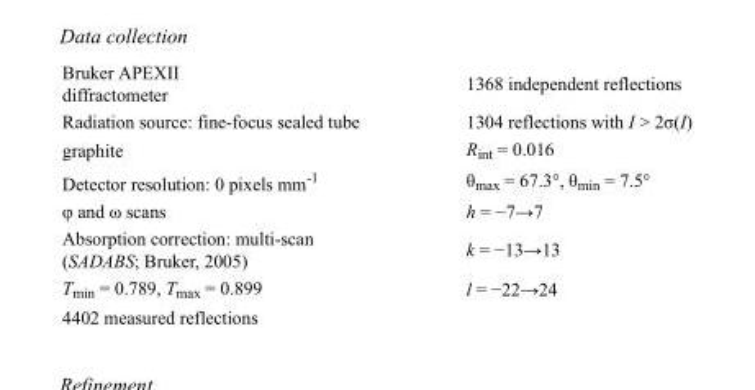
<table><tbody><tr><td>Bruker APEXII diffractometer</td><td>1368 independent reflections</td></tr><tr><td>Radiation source: fine-focus sealed tube</td><td>1304 reflections with I &gt; 2σ(I)</td></tr><tr><td>graphite</td><td>R<sub>int</sub> = 0.016</td></tr><tr><td>Detector resolution: 0 pixels mm<sup>-1</sup></td><td>θ<sub>max</sub> = 67.3°, θ<sub>min</sub> = 7.5°</td></tr><tr><td>φ and ω scans</td><td>h = −7→7</td></tr><tr><td>Absorption correction: multi-scan (SADABS; Bruker, 2005)</td><td>k = −13→13</td></tr><tr><td>T<sub>min</sub> = 0.789, T<sub>max</sub> = 0.899</td><td>l = −22→24</td></tr><tr><td>4402 measured reflections</td><td></td></tr></tbody></table>